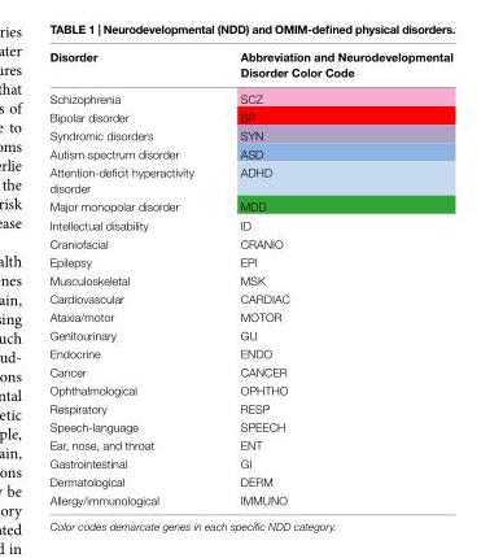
<table><thead><tr><td>Disorder</td><td>Abbreviation and Neurodevelopmental Disorder color code</td></tr></thead><tbody><tr><td>Schizophrenia</td><td>SCZ</td></tr><tr><td>Bipolar disorder</td><td>BP</td></tr><tr><td>Syndromic disorders</td><td>SYN</td></tr><tr><td>Autism spectrum disorder</td><td>ASD</td></tr><tr><td>Attention-deficit hyperactivity disorder</td><td>ADHD</td></tr><tr><td>Major monopolar disorder</td><td>MDD</td></tr><tr><td>Intellectual disability</td><td>ID</td></tr><tr><td>Craniofacial</td><td>CRANIO</td></tr><tr><td>Epilepsy</td><td>EPI</td></tr><tr><td>Musculoskeletal</td><td>MSK</td></tr><tr><td>Cardiovascular</td><td>CARDIAC</td></tr><tr><td>Ataxia/motor</td><td>MOTOR</td></tr><tr><td>Genitourinary</td><td>GU</td></tr><tr><td>Endocrine</td><td>ENDO</td></tr><tr><td>Cancer</td><td>CANCER</td></tr><tr><td>Ophthalmological</td><td>OPHTHO</td></tr><tr><td>Respiratory</td><td>RESP</td></tr><tr><td>Speech-language</td><td>SPEECH</td></tr><tr><td>Ear, nose, and throat</td><td>ENT</td></tr><tr><td>Gastrointestinal</td><td>GI</td></tr><tr><td>Dermatological</td><td>DERM</td></tr><tr><td>Allergy/immunological</td><td>IMMUNO</td></tr></tbody></table>